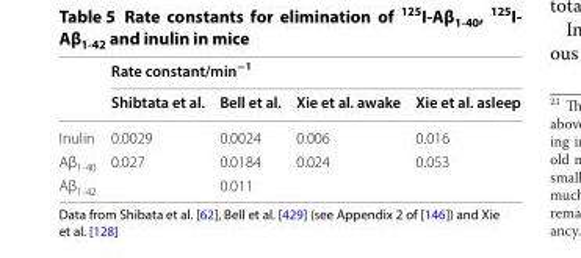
<table><thead><tr><td rowspan="2"></td><td colspan="4">Rate constant/min<sup>−1</sup></td></tr><tr><td>Shibtata et al.</td><td>Bell et al.</td><td>Xie et al. awake</td><td>Xie et al. asleep</td></tr></thead><tbody><tr><td>Inulin</td><td>0.0029</td><td>0.0024</td><td>0.006</td><td>0.016</td></tr><tr><td>Aβ<sub>1-40</sub></td><td>0.027</td><td>0.0184</td><td>0.024</td><td>0.053</td></tr><tr><td>Aβ<sub>1-42</sub></td><td></td><td>0.011</td><td></td><td></td></tr></tbody></table>